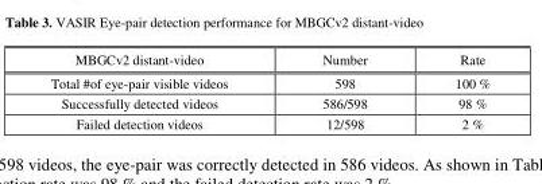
<table><thead><tr><td>MBGCv2 distant-video</td><td>Number</td><td>Rate</td></tr></thead><tbody><tr><td>Total #of eye-pair visible videos</td><td>598</td><td>100 %</td></tr><tr><td>Successfully detected videos</td><td>586/598</td><td>98 %</td></tr><tr><td>Failed detection videos</td><td>12/598</td><td>2 %</td></tr></tbody></table>